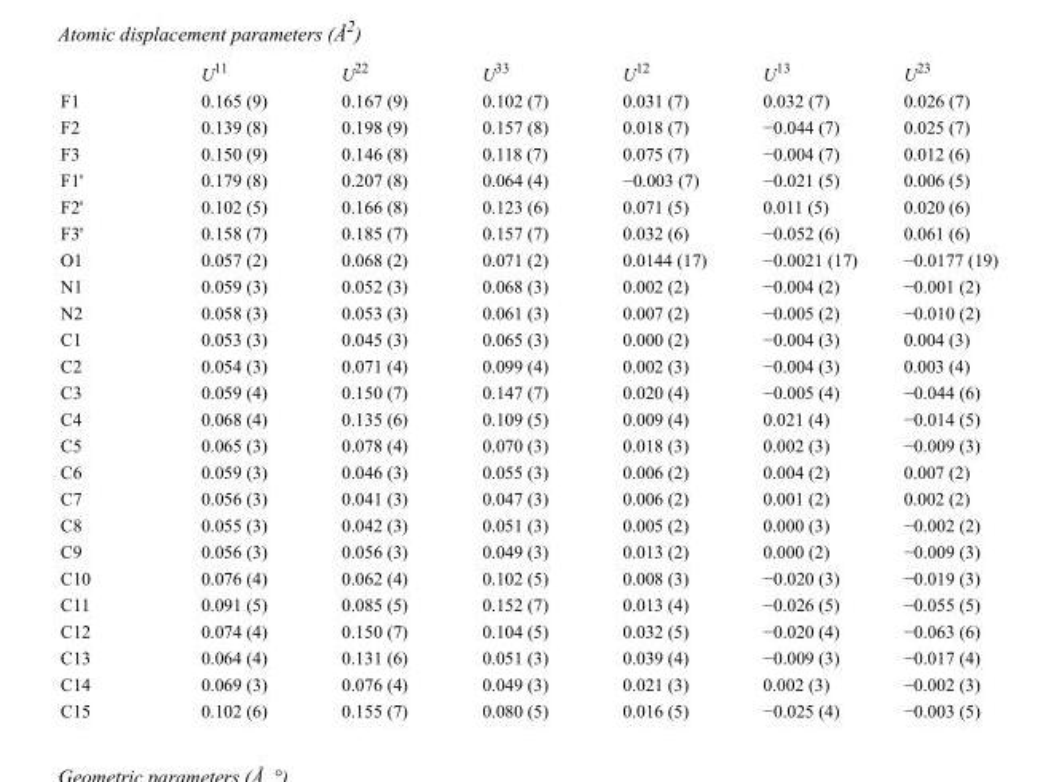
<table><thead><tr><td></td><td>U<sup>11</sup></td><td>U<sup>22</sup></td><td>U<sup>33</sup></td><td>U<sup>12</sup></td><td>U<sup>13</sup></td><td>U<sup>23</sup></td></tr></thead><tbody><tr><td>F1</td><td>0.165 (9)</td><td>0.167 (9)</td><td>0.102 (7)</td><td>0.031 (7)</td><td>0.032 (7)</td><td>0.026 (7)</td></tr><tr><td>F2</td><td>0.139 (8)</td><td>0.198 (9)</td><td>0.157 (8)</td><td>0.018 (7)</td><td>−0.044 (7)</td><td>0.025 (7)</td></tr><tr><td>F3</td><td>0.150 (9)</td><td>0.146 (8)</td><td>0.118 (7)</td><td>0.075 (7)</td><td>−0.004 (7)</td><td>0.012 (6)</td></tr><tr><td>F1&#x27;</td><td>0.179 (8)</td><td>0.207 (8)</td><td>0.064 (4)</td><td>−0.003 (7)</td><td>−0.021 (5)</td><td>0.006 (5)</td></tr><tr><td>F2&#x27;</td><td>0.102 (5)</td><td>0.166 (8)</td><td>0.123 (6)</td><td>0.071 (5)</td><td>0.011 (5)</td><td>0.020 (6)</td></tr><tr><td>F3&#x27;</td><td>0.158 (7)</td><td>0.185 (7)</td><td>0.157 (7)</td><td>0.032 (6)</td><td>−0.052 (6)</td><td>0.061 (6)</td></tr><tr><td>O1</td><td>0.057 (2)</td><td>0.068 (2)</td><td>0.071 (2)</td><td>0.0144 (17)</td><td>−0.0021 (17)</td><td>−0.0177 (19)</td></tr><tr><td>N1</td><td>0.059 (3)</td><td>0.052 (3)</td><td>0.068 (3)</td><td>0.002 (2)</td><td>−0.004 (2)</td><td>−0.001 (2)</td></tr><tr><td>N2</td><td>0.058 (3)</td><td>0.053 (3)</td><td>0.061 (3)</td><td>0.007 (2)</td><td>−0.005 (2)</td><td>−0.010 (2)</td></tr><tr><td>C1</td><td>0.053 (3)</td><td>0.045 (3)</td><td>0.065 (3)</td><td>0.000 (2)</td><td>−0.004 (3)</td><td>0.004 (3)</td></tr><tr><td>C2</td><td>0.054 (3)</td><td>0.071 (4)</td><td>0.099 (4)</td><td>0.002 (3)</td><td>−0.004 (3)</td><td>0.003 (4)</td></tr><tr><td>C3</td><td>0.059 (4)</td><td>0.150 (7)</td><td>0.147 (7)</td><td>0.020 (4)</td><td>−0.005 (4)</td><td>−0.044 (6)</td></tr><tr><td>C4</td><td>0.068 (4)</td><td>0.135 (6)</td><td>0.109 (5)</td><td>0.009 (4)</td><td>0.021 (4)</td><td>−0.014 (5)</td></tr><tr><td>C5</td><td>0.065 (3)</td><td>0.078 (4)</td><td>0.070 (3)</td><td>0.018 (3)</td><td>0.002 (3)</td><td>−0.009 (3)</td></tr><tr><td>C6</td><td>0.059 (3)</td><td>0.046 (3)</td><td>0.055 (3)</td><td>0.006 (2)</td><td>0.004 (2)</td><td>0.007 (2)</td></tr><tr><td>C7</td><td>0.056 (3)</td><td>0.041 (3)</td><td>0.047 (3)</td><td>0.006 (2)</td><td>0.001 (2)</td><td>0.002 (2)</td></tr><tr><td>C8</td><td>0.055 (3)</td><td>0.042 (3)</td><td>0.051 (3)</td><td>0.005 (2)</td><td>0.000 (3)</td><td>−0.002 (2)</td></tr><tr><td>C9</td><td>0.056 (3)</td><td>0.056 (3)</td><td>0.049 (3)</td><td>0.013 (2)</td><td>0.000 (2)</td><td>−0.009 (3)</td></tr><tr><td>C10</td><td>0.076 (4)</td><td>0.062 (4)</td><td>0.102 (5)</td><td>0.008 (3)</td><td>−0.020 (3)</td><td>−0.019 (3)</td></tr><tr><td>C11</td><td>0.091 (5)</td><td>0.085 (5)</td><td>0.152 (7)</td><td>0.013 (4)</td><td>−0.026 (5)</td><td>−0.055 (5)</td></tr><tr><td>C12</td><td>0.074 (4)</td><td>0.150 (7)</td><td>0.104 (5)</td><td>0.032 (5)</td><td>−0.020 (4)</td><td>−0.063 (6)</td></tr><tr><td>C13</td><td>0.064 (4)</td><td>0.131 (6)</td><td>0.051 (3)</td><td>0.039 (4)</td><td>−0.009 (3)</td><td>−0.017 (4)</td></tr><tr><td>C14</td><td>0.069 (3)</td><td>0.076 (4)</td><td>0.049 (3)</td><td>0.021 (3)</td><td>0.002 (3)</td><td>−0.002 (3)</td></tr><tr><td>C15</td><td>0.102 (6)</td><td>0.155 (7)</td><td>0.080 (5)</td><td>0.016 (5)</td><td>−0.025 (4)</td><td>−0.003 (5)</td></tr></tbody></table>